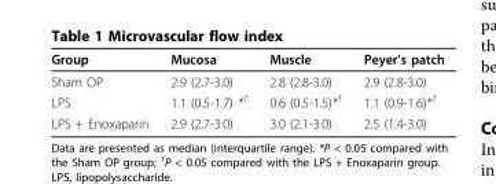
<table><thead><tr><td>Group</td><td>Mucosa</td><td>Muscle</td><td>Peyer’s patch</td></tr></thead><tbody><tr><td>Sham OP</td><td>2.9 (2.7-3.0)</td><td>2.8 (2.8-3.0)</td><td>2.9 (2.8-3.0)</td></tr><tr><td>LPS</td><td>1.1 (0.5-1.7) *<sup>†</sup></td><td>0.6 (0.5-1.5)*<sup>†</sup></td><td>1.1 (0.9-1.6)*<sup>†</sup></td></tr><tr><td>LPS + Enoxaparin</td><td>2.9 (2.7-3.0)</td><td>3.0 (2.1-3.0)</td><td>2.5 (1.4-3.0)</td></tr></tbody></table>